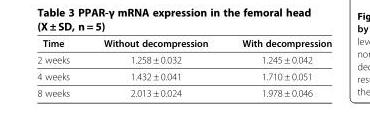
<table><thead><tr><td>Time</td><td>Without decompression</td><td>With decompression</td></tr></thead><tbody><tr><td>2 weeks</td><td>1.258 ± 0.032</td><td>1.245 ± 0.042</td></tr><tr><td>4 weeks</td><td>1.432 ± 0.041</td><td>1.710 ± 0.051</td></tr><tr><td>8 weeks</td><td>2.013 ± 0.024</td><td>1.978 ± 0.046</td></tr></tbody></table>